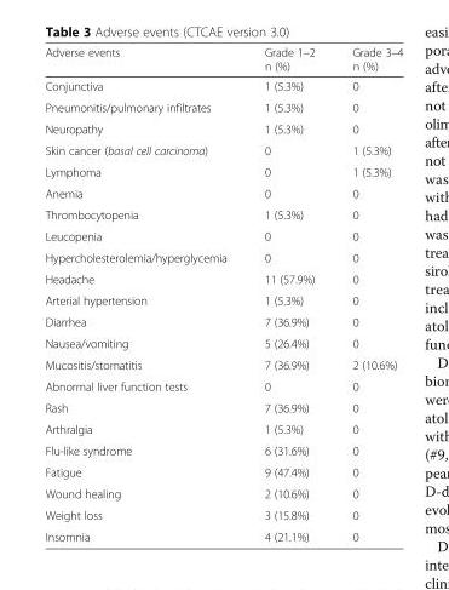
<table><thead><tr><td>Adverse events</td><td>Grade 1–2 n (%)</td><td>Grade 3–4 n (%)</td></tr></thead><tbody><tr><td>Conjunctiva</td><td>1 (5.3%)</td><td>0</td></tr><tr><td>Pneumonitis/pulmonary infiltrates</td><td>1 (5.3%)</td><td>0</td></tr><tr><td>Neuropathy</td><td>1 (5.3%)</td><td>0</td></tr><tr><td>Skin cancer (basal cell carcinoma)</td><td>0</td><td>1 (5.3%)</td></tr><tr><td>Lymphoma</td><td>0</td><td>1 (5.3%)</td></tr><tr><td>Anemia</td><td>0</td><td>0</td></tr><tr><td>Thrombocytopenia</td><td>1 (5.3%)</td><td>0</td></tr><tr><td>Leucopenia</td><td>0</td><td>0</td></tr><tr><td>Hypercholesterolemia/hyperglycemia</td><td>0</td><td>0</td></tr><tr><td>Headache</td><td>11 (57.9%)</td><td>0</td></tr><tr><td>Arterial hypertension</td><td>1 (5.3%)</td><td>0</td></tr><tr><td>Diarrhea</td><td>7 (36.9%)</td><td>0</td></tr><tr><td>Nausea/vomiting</td><td>5 (26.4%)</td><td>0</td></tr><tr><td>Mucositis/stomatitis</td><td>7 (36.9%)</td><td>2 (10.6%)</td></tr><tr><td>Abnormal liver function tests</td><td>0</td><td>0</td></tr><tr><td>Rash</td><td>7 (36.9%)</td><td>0</td></tr><tr><td>Arthralgia</td><td>1 (5.3%)</td><td>0</td></tr><tr><td>Flu-like syndrome</td><td>6 (31.6%)</td><td>0</td></tr><tr><td>Fatigue</td><td>9 (47.4%)</td><td>0</td></tr><tr><td>Wound healing</td><td>2 (10.6%)</td><td>0</td></tr><tr><td>Weight loss</td><td>3 (15.8%)</td><td>0</td></tr><tr><td>Insomnia</td><td>4 (21.1%)</td><td>0</td></tr></tbody></table>